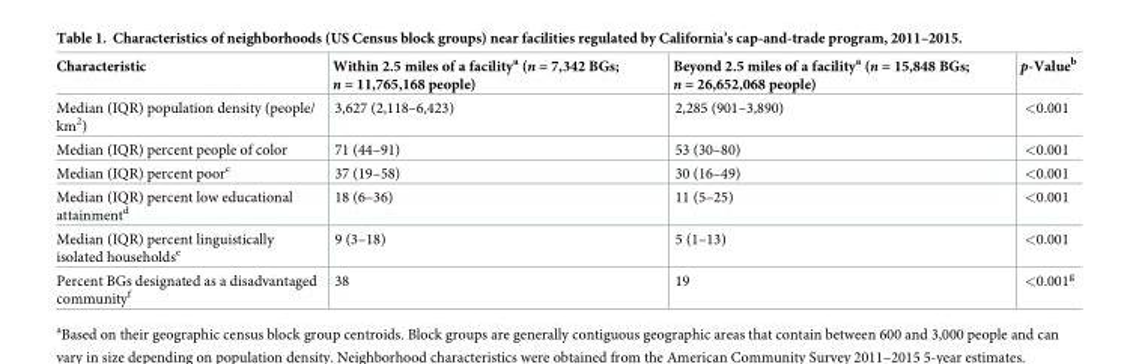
<table><thead><tr><td>Characteristic</td><td>Within 2.5 miles of a facility<sup>a</sup> (n = 7,342 BGs; n = 11,765,168 people)</td><td>Beyond 2.5 miles of a facility<sup>a</sup> (n = 15,848 BGs; n = 26,652,068 people)</td><td>p-Value<sup>b</sup></td></tr></thead><tbody><tr><td>Median (IQR) population density (people/ km<sup>2</sup>)</td><td>3,627 (2,118–6,423)</td><td>2,285 (901–3,890)</td><td>&lt;0.001</td></tr><tr><td>Median (IQR) percent people of color</td><td>71 (44–91)</td><td>53 (30–80)</td><td>&lt;0.001</td></tr><tr><td>Median (IQR) percent poor<sup>c</sup></td><td>37 (19–58)</td><td>30 (16–49)</td><td>&lt;0.001</td></tr><tr><td>Median (IQR) percent low educational attainment<sup>d</sup></td><td>18 (6–36)</td><td>11 (5–25)</td><td>&lt;0.001</td></tr><tr><td>Median (IQR) percent linguistically isolated households<sup>e</sup></td><td>9 (3–18)</td><td>5 (1–13)</td><td>&lt;0.001</td></tr><tr><td>Percent BGs designated as a disadvantaged community<sup>f</sup></td><td>38</td><td>19</td><td>&lt;0.001<sup>g</sup></td></tr></tbody></table>